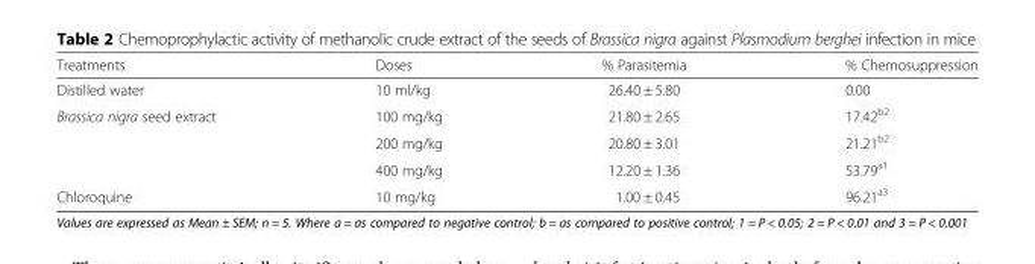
<table><thead><tr><td>Treatments</td><td>Doses</td><td>% Parasitemia</td><td>% Chemosuppression</td></tr></thead><tbody><tr><td>Distilled water</td><td>10 ml/kg</td><td>26.40 ± 5.80</td><td>0.00</td></tr><tr><td rowspan="3">Brassica nigra seed extract</td><td>100 mg/kg</td><td>21.80 ± 2.65</td><td>17.42<sup>b2</sup></td></tr><tr><td>200 mg/kg</td><td>20.80 ± 3.01</td><td>21.21<sup>b2</sup></td></tr><tr><td>400 mg/kg</td><td>12.20 ± 1.36</td><td>53.79<sup>a1</sup></td></tr><tr><td>Chloroquine</td><td>10 mg/kg</td><td>1.00 ± 0.45</td><td>96.21<sup>a3</sup></td></tr></tbody></table>